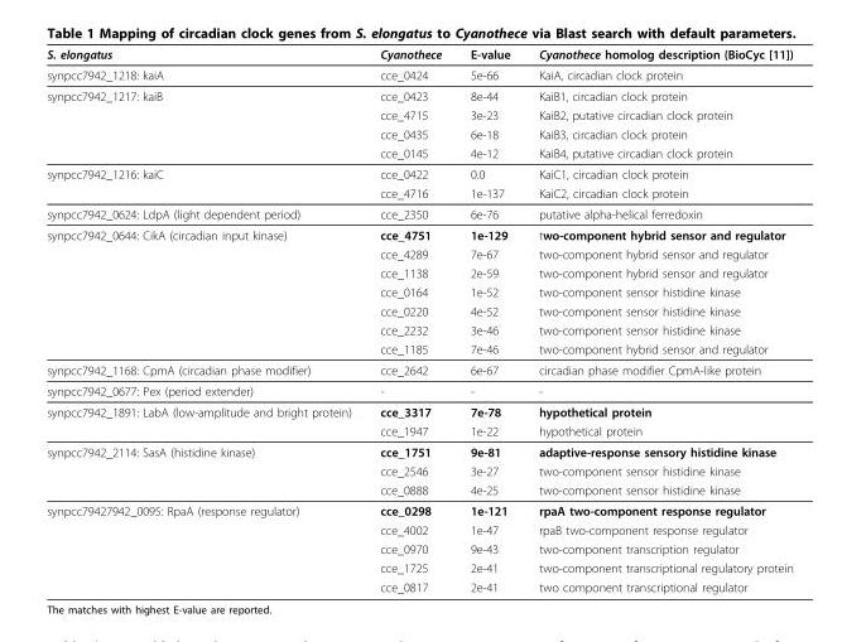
<table><thead><tr><td>S. elongatus</td><td>Cyanothece</td><td>E-value</td><td>Cyanothece homolog description (BioCyc [11])</td></tr></thead><tbody><tr><td>synpcc7942_1218: kaiA</td><td>cce_0424</td><td>5e-66</td><td>KaiA, circadian clock protein</td></tr><tr><td rowspan="4">synpcc7942_1217: kaiB</td><td>cce_0423</td><td>8e-44</td><td>KaiB1, circadian clock protein</td></tr><tr><td>cce_4715</td><td>3e-23</td><td>KaiB2, putative circadian clock protein</td></tr><tr><td>cce_0435</td><td>6e-18</td><td>KaiB3, circadian clock protein</td></tr><tr><td>cce_0145</td><td>4e-12</td><td>KaiB4, putative circadian clock protein</td></tr><tr><td rowspan="2">synpcc7942_1216: kaiC</td><td>cce_0422</td><td>0.0</td><td>KaiC1, circadian clock protein</td></tr><tr><td>cce_4716</td><td>1e-137</td><td>KaiC2, circadian clock protein</td></tr><tr><td>synpcc7942_0624: LdpA (light dependent period)</td><td>cce_2350</td><td>6e-76</td><td>putative alpha-helical ferredoxin</td></tr><tr><td rowspan="7">synpcc7942_0644: CikA (circadian input kinase)</td><td>cce_4751</td><td>1e-129</td><td>two-component hybrid sensor and regulator</td></tr><tr><td>cce_4289</td><td>7e-67</td><td>two-component hybrid sensor and regulator</td></tr><tr><td>cce_1138</td><td>2e-59</td><td>two-component hybrid sensor and regulator</td></tr><tr><td>cce_0164</td><td>1e-52</td><td>two-component sensor histidine kinase</td></tr><tr><td>cce_0220</td><td>4e-52</td><td>two-component sensor histidine kinase</td></tr><tr><td>cce_2232</td><td>3e-46</td><td>two-component sensor histidine kinase</td></tr><tr><td>cce_1185</td><td>7e-46</td><td>two-component hybrid sensor and regulator</td></tr><tr><td>synpcc7942_1168: CpmA (circadian phase modifier)</td><td>cce_2642</td><td>6e-67</td><td>circadian phase modifier CpmA-like protein</td></tr><tr><td>synpcc7942_0677: Pex (period extender)</td><td>-</td><td>-</td><td>-</td></tr><tr><td rowspan="2">synpcc7942_1891: LabA (low-amplitude and bright protein)</td><td>cce_3317</td><td>7e-78</td><td>hypothetical protein</td></tr><tr><td>cce_1947</td><td>1e-22</td><td>hypothetical protein</td></tr><tr><td rowspan="3">synpcc7942_2114: SasA (histidine kinase)</td><td>cce_1751</td><td>9e-81</td><td>adaptive-response sensory histidine kinase</td></tr><tr><td>cce_2546</td><td>3e-27</td><td>two-component sensor histidine kinase</td></tr><tr><td>cce_0888</td><td>4e-25</td><td>two-component sensor histidine kinase</td></tr><tr><td rowspan="5">synpcc79427942_0095: RpaA (response regulator)</td><td>cce_0298</td><td>1e-121</td><td>rpaA two-component response regulator</td></tr><tr><td>cce_4002</td><td>1e-47</td><td>rpaB two-component response regulator</td></tr><tr><td>cce_0970</td><td>9e-43</td><td>two-component transcription regulator</td></tr><tr><td>cce_1725</td><td>2e-41</td><td>two-component transcriptional regulatory protein</td></tr><tr><td>cce_0817</td><td>2e-41</td><td>two component transcriptional regulator</td></tr></tbody></table>